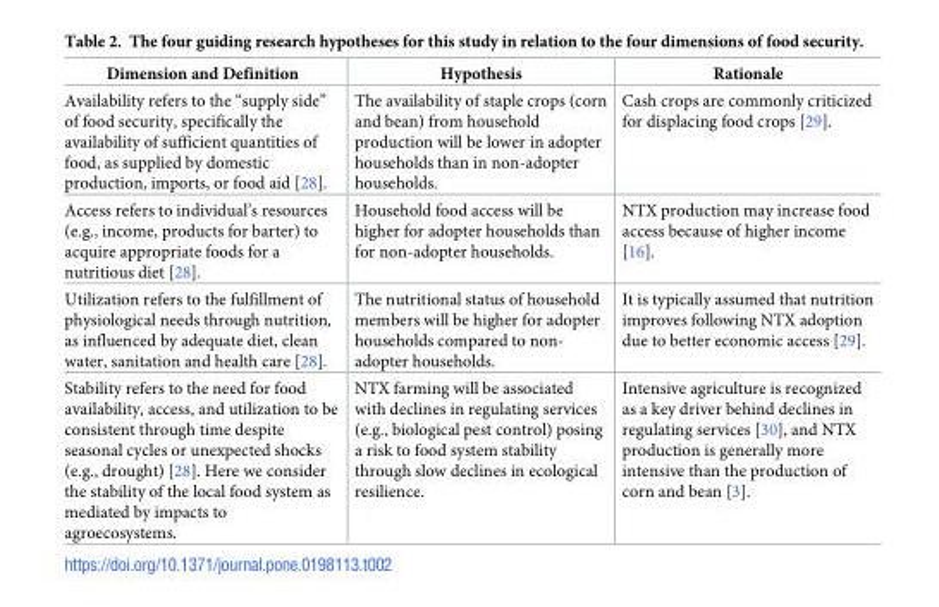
<table><thead><tr><td>Dimension and Definition</td><td>Hypothesis</td><td>Rationale</td></tr></thead><tbody><tr><td>Availability refers to the “supply side” of food security, specifically the availability of sufficient quantities of food, as supplied by domestic production, imports, or food aid [28].</td><td>The availability of staple crops (corn and bean) from household production will be lower in adopter households than in non-adopter households.</td><td>Cash crops are commonly criticized for displacing food crops [29].</td></tr><tr><td>Access refers to individual’s resources (e.g., income, products for barter) to acquire appropriate foods for a nutritious diet [28].</td><td>Household food access will be higher for adopter households than for non-adopter households.</td><td>NTX production may increase food access because of higher income [16].</td></tr><tr><td>Utilization refers to the fulfillment of physiological needs through nutrition, as influenced by adequate diet, clean water, sanitation and health care [28].</td><td>The nutritional status of household members will be higher for adopter households compared to non- adopter households.</td><td>It is typically assumed that nutrition improves following NTX adoption due to better economic access [29].</td></tr><tr><td>Stability refers to the need for food availability, access, and utilization to be consistent through time despite seasonal cycles or unexpected shocks (e.g., drought) [28]. Here we consider the stability of the local food system as mediated by impacts to agroecosystems.</td><td>NTX farming will be associated with declines in regulating services (e.g., biological pest control) posing a risk to food system stability through slow declines in ecological resilience.</td><td>Intensive agriculture is recognized as a key driver behind declines in regulating services [30], and NTX production is generally more intensive than the production of corn and bean [3].</td></tr></tbody></table>